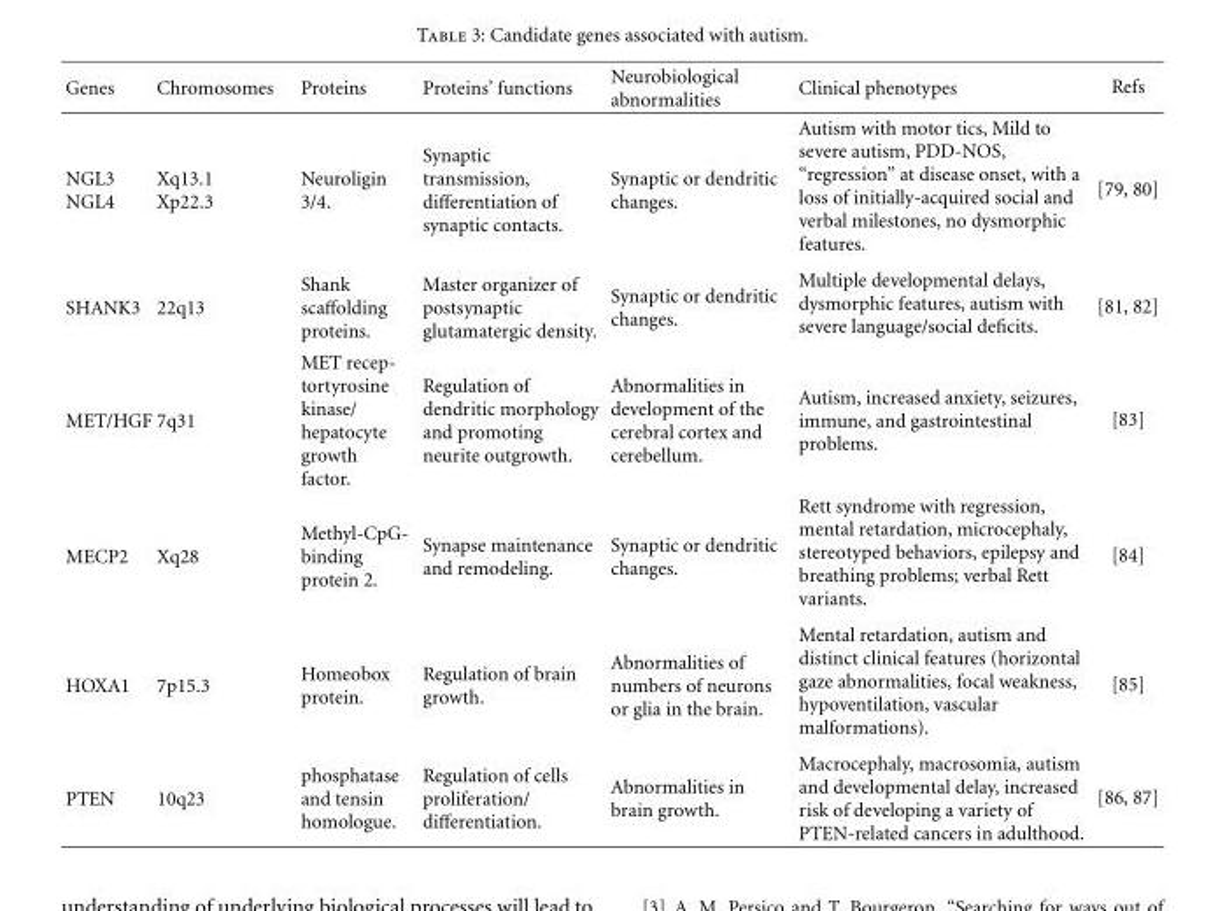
<table><thead><tr><td>Genes</td><td>Chromosomes</td><td>Proteins</td><td>Proteins’ functions</td><td>Neurobiological abnormalities</td><td>Clinical phenotypes</td><td>Refs</td></tr></thead><tbody><tr><td>NGL3 NGL4</td><td>Xq13.1 Xp22.3</td><td>Neuroligin 3/4.</td><td>Synaptic transmission, differentiation of synaptic contacts.</td><td>Synaptic or dendritic changes.</td><td>Autism with motor tics, Mild to severe autism, PDD-NOS, “regression” at disease onset, with a loss of initially-acquired social and verbal milestones, no dysmorphic features.</td><td>[79, 80]</td></tr><tr><td>SHANK3</td><td>22q13</td><td>Shank scaffolding proteins.</td><td>Master organizer of postsynaptic glutamatergic density.</td><td>Synaptic or dendritic changes.</td><td>Multiple developmental delays, dysmorphic features, autism with severe language/social deficits.</td><td>[81, 82]</td></tr><tr><td>MET/HGF</td><td>7q31</td><td>MET recep- tortyrosine kinase/ hepatocyte growth factor.</td><td>Regulation of dendritic morphology and promoting neurite outgrowth.</td><td>Abnormalities in development of the cerebral cortex and cerebellum.</td><td>Autism, increased anxiety, seizures, immune, and gastrointestinal problems.</td><td>[83]</td></tr><tr><td>MECP2</td><td>Xq28</td><td>Methyl-CpG- binding protein 2.</td><td>Synapse maintenance and remodeling.</td><td>Synaptic or dendritic changes.</td><td>Rett syndrome with regression, mental retardation, microcephaly, stereotyped behaviors, epilepsy and breathing problems; verbal Rett variants.</td><td>[84]</td></tr><tr><td>HOXA1</td><td>7p15.3</td><td>Homeobox protein.</td><td>Regulation of brain growth.</td><td>Abnormalities of numbers of neurons or glia in the brain.</td><td>Mental retardation, autism and distinct clinical features (horizontal gaze abnormalities, focal weakness, hypoventilation, vascular malformations).</td><td>[85]</td></tr><tr><td>PTEN</td><td>10q23</td><td>phosphatase and tensin homologue.</td><td>Regulation of cells proliferation/ differentiation.</td><td>Abnormalities in brain growth.</td><td>Macrocephaly, macrosomia, autism and developmental delay, increased risk of developing a variety of PTEN-related cancers in adulthood.</td><td>[86, 87]</td></tr></tbody></table>